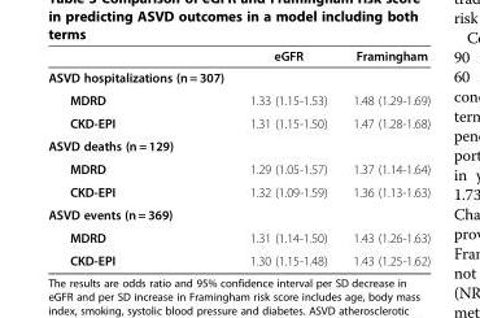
<table><thead><tr><td></td><td>eGFR</td><td>Framingham</td></tr></thead><tbody><tr><td colspan="3">ASVD hospitalizations (n = 307)</td></tr><tr><td>MDRD</td><td>1.33 (1.15-1.53)</td><td>1.48 (1.29-1.69)</td></tr><tr><td>CKD-EPI</td><td>1.31 (1.15-1.50)</td><td>1.47 (1.28-1.68)</td></tr><tr><td colspan="3">ASVD deaths (n = 129)</td></tr><tr><td>MDRD</td><td>1.29 (1.05-1.57)</td><td>1.37 (1.14-1.64)</td></tr><tr><td>CKD-EPI</td><td>1.32 (1.09-1.59)</td><td>1.36 (1.13-1.63)</td></tr><tr><td colspan="3">ASVD events (n = 369)</td></tr><tr><td>MDRD</td><td>1.31 (1.14-1.50)</td><td>1.43 (1.26-1.63)</td></tr><tr><td>CKD-EPI</td><td>1.30 (1.15-1.48)</td><td>1.43 (1.25-1.62)</td></tr></tbody></table>